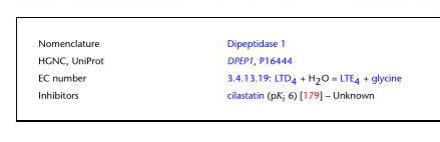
<table><tbody><tr><td>Nomenclature</td><td>Dipeptidase 1</td></tr><tr><td>HGNC, UniProt</td><td>DPEP1, P16444</td></tr><tr><td>EC number</td><td>3.4.13.19: LTD<sub>4</sub> + H<sub>2</sub>O = LTE<sub>4</sub> + glycine</td></tr><tr><td>Inhibitors</td><td>cilastatin (pK<sub>i</sub> 6) [179] – Unknown</td></tr></tbody></table>